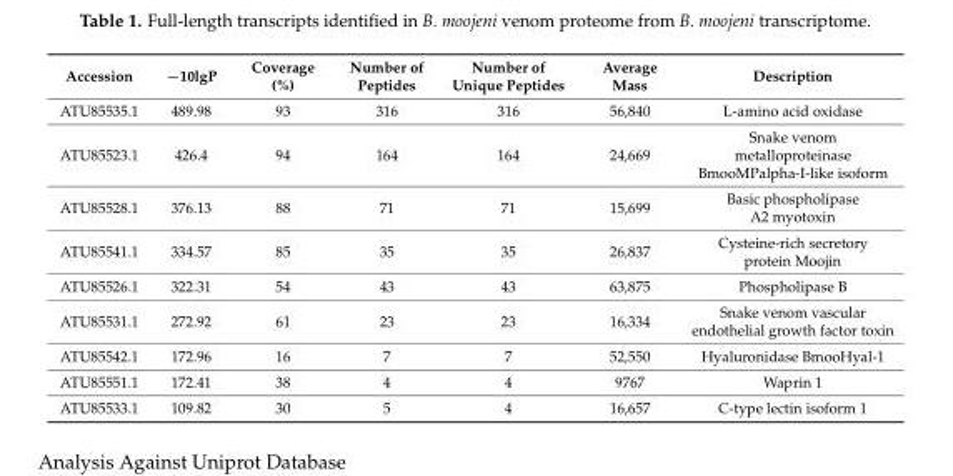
<table><thead><tr><td>Accession</td><td>−10lgP</td><td>Coverage (%)</td><td>Number of Peptides</td><td>Number of Unique Peptides</td><td>Average Mass</td><td>Description</td></tr></thead><tbody><tr><td>ATU85535.1</td><td>489.98</td><td>93</td><td>316</td><td>316</td><td>56,840</td><td>L-amino acid oxidase</td></tr><tr><td>ATU85523.1</td><td>426.4</td><td>94</td><td>164</td><td>164</td><td>24,669</td><td>Snake venom metalloproteinase BmooMPalpha-I-like isoform</td></tr><tr><td>ATU85528.1</td><td>376.13</td><td>88</td><td>71</td><td>71</td><td>15,699</td><td>Basic phospholipase A2 myotoxin</td></tr><tr><td>ATU85541.1</td><td>334.57</td><td>85</td><td>35</td><td>35</td><td>26,837</td><td>Cysteine-rich secretory protein Moojin</td></tr><tr><td>ATU85526.1</td><td>322.31</td><td>54</td><td>43</td><td>43</td><td>63,875</td><td>Phospholipase B</td></tr><tr><td>ATU85531.1</td><td>272.92</td><td>61</td><td>23</td><td>23</td><td>16,334</td><td>Snake venom vascular endothelial growth factor toxin</td></tr><tr><td>ATU85542.1</td><td>172.96</td><td>16</td><td>7</td><td>7</td><td>52,550</td><td>Hyaluronidase BmooHyal-1</td></tr><tr><td>ATU85551.1</td><td>172.41</td><td>38</td><td>4</td><td>4</td><td>9767</td><td>Waprin 1</td></tr><tr><td>ATU85533.1</td><td>109.82</td><td>30</td><td>5</td><td>4</td><td>16,657</td><td>C-type lectin isoform 1</td></tr></tbody></table>